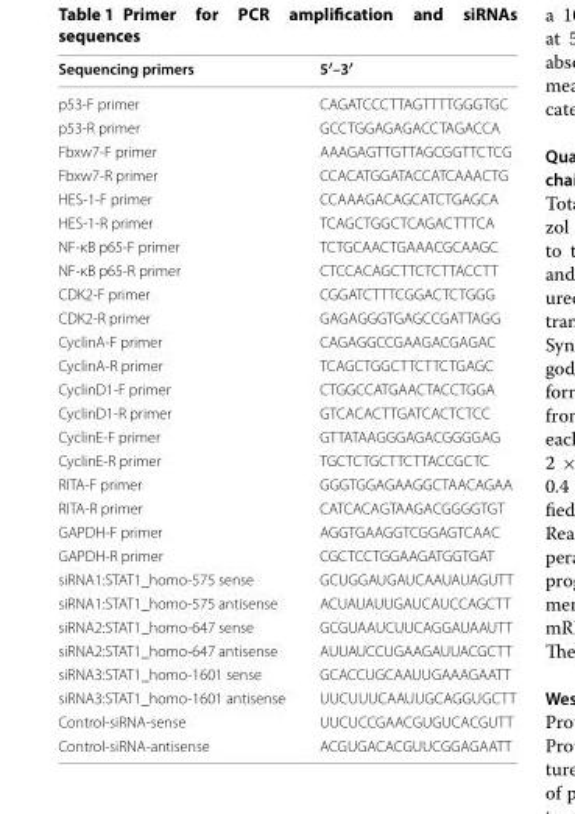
<table><thead><tr><td>Sequencing primers</td><td>5′–3′</td></tr></thead><tbody><tr><td>p53-F primer</td><td>CAGATCCCTTAGTTTTGGGTGC</td></tr><tr><td>p53-R primer</td><td>GCCTGGAGAGACCTAGACCA</td></tr><tr><td>Fbxw7-F primer</td><td>AAAGAGTTGTTAGCGGTTCTCG</td></tr><tr><td>Fbxw7-R primer</td><td>CCACATGGATACCATCAAACTG</td></tr><tr><td>HES-1-F primer</td><td>CCAAAGACAGCATCTGAGCA</td></tr><tr><td>HES-1-R primer</td><td>TCAGCTGGCTCAGACTTTCA</td></tr><tr><td>NF-κB p65-F primer</td><td>TCTGCAACTGAAACGCAAGC</td></tr><tr><td>NF-κB p65-R primer</td><td>CTCCACAGCTTCTCTTACCTT</td></tr><tr><td>CDK2-F primer</td><td>CGGATCTTTCGGACTCTGGG</td></tr><tr><td>CDK2-R primer</td><td>GAGAGGGTGAGCCGATTAGG</td></tr><tr><td>CyclinA-F primer</td><td>CAGAGGCCGAAGACGAGAC</td></tr><tr><td>CyclinA-R primer</td><td>TCAGCTGGCTTCTTCTGAGC</td></tr><tr><td>CyclinD1-F primer</td><td>CTGGCCATGAACTACCTGGA</td></tr><tr><td>CyclinD1-R primer</td><td>GTCACACTTGATCACTCTCC</td></tr><tr><td>CyclinE-F primer</td><td>GTTATAAGGGAGACGGGGAG</td></tr><tr><td>CyclinE-R primer</td><td>TGCTCTGCTTCTTACCGCTC</td></tr><tr><td>RITA-F primer</td><td>GGGTGGAGAAGGCTAACAGAA</td></tr><tr><td>RITA-R primer</td><td>CATCACAGTAAGACGGGGTGT</td></tr><tr><td>GAPDH-F primer</td><td>AGGTGAAGGTCGGAGTCAAC</td></tr><tr><td>GAPDH-R primer</td><td>CGCTCCTGGAAGATGGTGAT</td></tr><tr><td>siRNA1:STAT1_homo-575 sense</td><td>GCUGGAUGAUCAAUAUAGUTT</td></tr><tr><td>siRNA1:STAT1_homo-575 antisense</td><td>ACUAUAUUGAUCAUCCAGCTT</td></tr><tr><td>siRNA2:STAT1_homo-647 sense</td><td>GCGUAAUCUUCAGGAUAAUTT</td></tr><tr><td>siRNA2:STAT1_homo-647 antisense</td><td>AUUAUCCUGAAGAUUACGCTT</td></tr><tr><td>siRNA3:STAT1_homo-1601 sense</td><td>GCACCUGCAAUUGAAAGAATT</td></tr><tr><td>siRNA3:STAT1_homo-1601 antisense</td><td>UUCUUUCAAUUGCAGGUGCTT</td></tr><tr><td>Control-siRNA-sense</td><td>UUCUCCGAACGUGUCACGUTT</td></tr><tr><td>Control-siRNA-antisense</td><td>ACGUGACACGUUCGGAGAATT</td></tr></tbody></table>